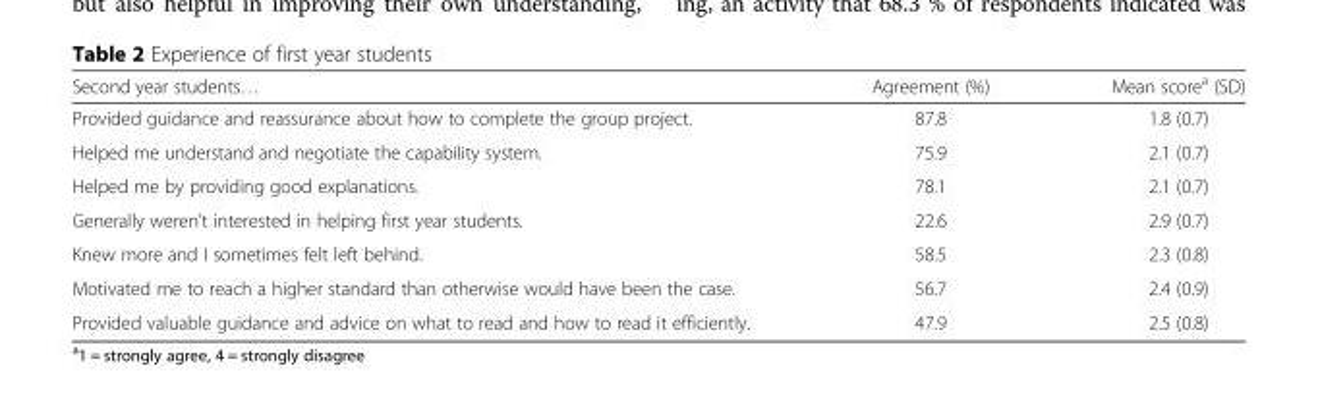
<table><thead><tr><td>Second year students…</td><td>Agreement (%)</td><td>Mean score<sup>a</sup> (SD)</td></tr></thead><tbody><tr><td>Provided guidance and reassurance about how to complete the group project.</td><td>87.8</td><td>1.8 (0.7)</td></tr><tr><td>Helped me understand and negotiate the capability system.</td><td>75.9</td><td>2.1 (0.7)</td></tr><tr><td>Helped me by providing good explanations.</td><td>78.1</td><td>2.1 (0.7)</td></tr><tr><td>Generally weren’t interested in helping first year students.</td><td>22.6</td><td>2.9 (0.7)</td></tr><tr><td>Knew more and I sometimes felt left behind.</td><td>58.5</td><td>2.3 (0.8)</td></tr><tr><td>Motivated me to reach a higher standard than otherwise would have been the case.</td><td>56.7</td><td>2.4 (0.9)</td></tr><tr><td>Provided valuable guidance and advice on what to read and how to read it efficiently.</td><td>47.9</td><td>2.5 (0.8)</td></tr></tbody></table>